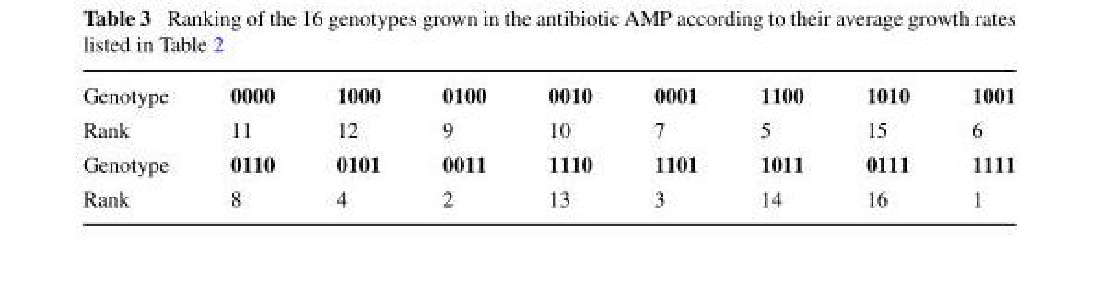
<table><tbody><tr><td>Genotype</td><td>0000</td><td>1000</td><td>0100</td><td>0010</td><td>0001</td><td>1100</td><td>1010</td><td>1001</td></tr><tr><td>Rank</td><td>11</td><td>12</td><td>9</td><td>10</td><td>7</td><td>5</td><td>15</td><td>6</td></tr><tr><td>Genotype</td><td>0110</td><td>0101</td><td>0011</td><td>1110</td><td>1101</td><td>1011</td><td>0111</td><td>1111</td></tr><tr><td>Rank</td><td>8</td><td>4</td><td>2</td><td>13</td><td>3</td><td>14</td><td>16</td><td>1</td></tr></tbody></table>